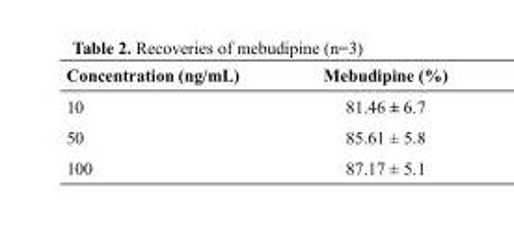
<table><thead><tr><td>Concentration (ng/mL)</td><td>Mebudipine (%)</td></tr></thead><tbody><tr><td>10</td><td>81.46 ± 6.7</td></tr><tr><td>50</td><td>85.61 ± 5.8</td></tr><tr><td>100</td><td>87.17 ± 5.1</td></tr></tbody></table>